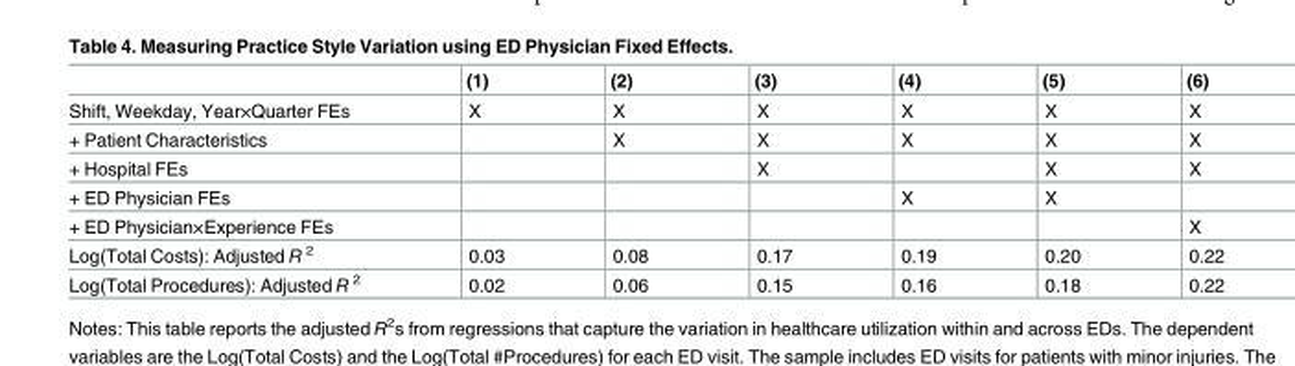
<table><thead><tr><td></td><td>(1)</td><td>(2)</td><td>(3)</td><td>(4)</td><td>(5)</td><td>(6)</td></tr></thead><tbody><tr><td>Shift, Weekday, Year×Quarter FEs</td><td>X</td><td>X</td><td>X</td><td>X</td><td>X</td><td>X</td></tr><tr><td>+ Patient Characteristics</td><td></td><td>X</td><td>X</td><td>X</td><td>X</td><td>X</td></tr><tr><td>+ Hospital FEs</td><td></td><td></td><td>X</td><td></td><td>X</td><td>X</td></tr><tr><td>+ ED Physician FEs</td><td></td><td></td><td></td><td>X</td><td>X</td><td></td></tr><tr><td>+ ED Physician×Experience FEs</td><td></td><td></td><td></td><td></td><td></td><td>X</td></tr><tr><td>Log(Total Costs): Adjusted R <sup>2</sup></td><td>0.03</td><td>0.08</td><td>0.17</td><td>0.19</td><td>0.20</td><td>0.22</td></tr><tr><td>Log(Total Procedures): Adjusted R <sup>2</sup></td><td>0.02</td><td>0.06</td><td>0.15</td><td>0.16</td><td>0.18</td><td>0.22</td></tr></tbody></table>